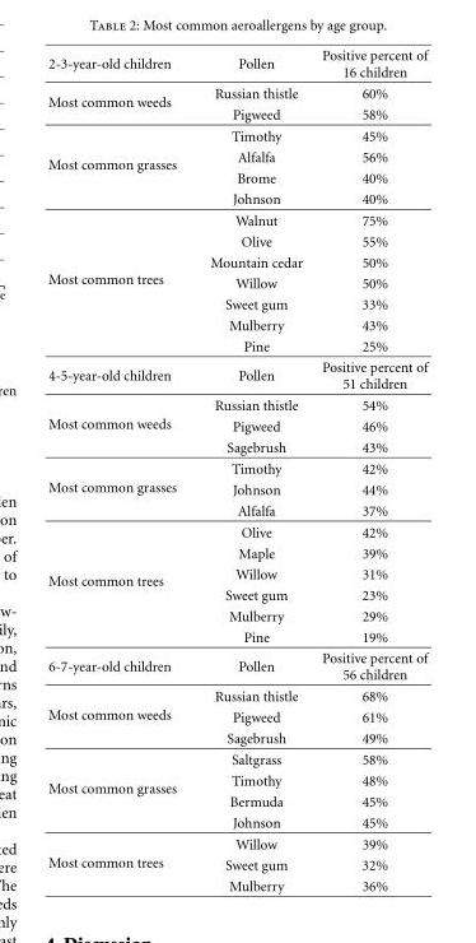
<table><thead><tr><td>2-3-year-old children</td><td>Pollen</td><td>Positive percent of 16 children</td></tr></thead><tbody><tr><td rowspan="2">Most common weeds</td><td>Russian thistle</td><td>60%</td></tr><tr><td>Pigweed</td><td>58%</td></tr><tr><td rowspan="4">Most common grasses</td><td>Timothy</td><td>45%</td></tr><tr><td>Alfalfa</td><td>56%</td></tr><tr><td>Brome</td><td>40%</td></tr><tr><td>Johnson</td><td>40%</td></tr><tr><td rowspan="7">Most common trees</td><td>Walnut</td><td>75%</td></tr><tr><td>Olive</td><td>55%</td></tr><tr><td>Mountain cedar</td><td>50%</td></tr><tr><td>Willow</td><td>50%</td></tr><tr><td>Sweet gum</td><td>33%</td></tr><tr><td>Mulberry</td><td>43%</td></tr><tr><td>Pine</td><td>25%</td></tr><tr><td>4-5-year-old children</td><td>Pollen</td><td>Positive percent of 51 children</td></tr><tr><td rowspan="3">Most common weeds</td><td>Russian thistle</td><td>54%</td></tr><tr><td>Pigweed</td><td>46%</td></tr><tr><td>Sagebrush</td><td>43%</td></tr><tr><td rowspan="3">Most common grasses</td><td>Timothy</td><td>42%</td></tr><tr><td>Johnson</td><td>44%</td></tr><tr><td>Alfalfa</td><td>37%</td></tr><tr><td rowspan="6">Most common trees</td><td>Olive</td><td>42%</td></tr><tr><td>Maple</td><td>39%</td></tr><tr><td>Willow</td><td>31%</td></tr><tr><td>Sweet gum</td><td>23%</td></tr><tr><td>Mulberry</td><td>29%</td></tr><tr><td>Pine</td><td>19%</td></tr><tr><td>6-7-year-old children</td><td>Pollen</td><td>Positive percent of 56 children</td></tr><tr><td rowspan="3">Most common weeds</td><td>Russian thistle</td><td>68%</td></tr><tr><td>Pigweed</td><td>61%</td></tr><tr><td>Sagebrush</td><td>49%</td></tr><tr><td rowspan="4">Most common grasses</td><td>Saltgrass</td><td>58%</td></tr><tr><td>Timothy</td><td>48%</td></tr><tr><td>Bermuda</td><td>45%</td></tr><tr><td>Johnson</td><td>45%</td></tr><tr><td rowspan="3">Most common trees</td><td>Willow</td><td>39%</td></tr><tr><td>Sweet gum</td><td>32%</td></tr><tr><td>Mulberry</td><td>36%</td></tr></tbody></table>